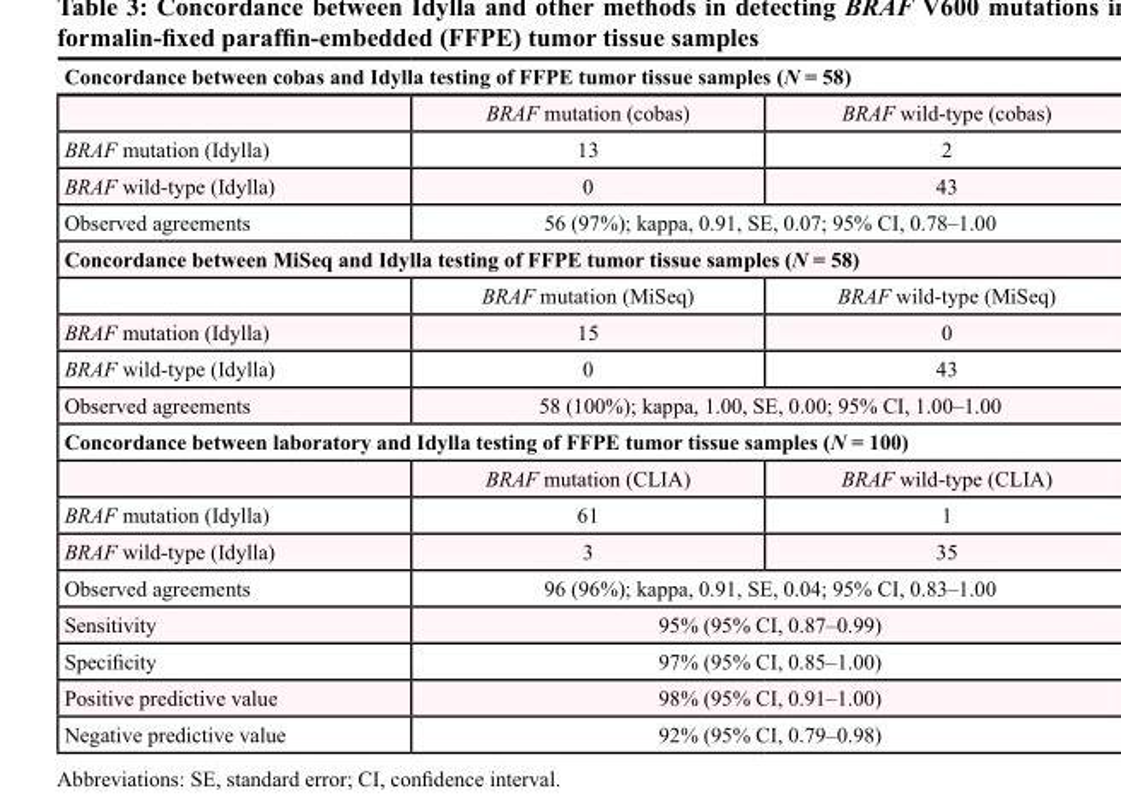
<table><thead><tr><td colspan="3">Concordance between cobas and Idylla testing of FFPE tumor tissue samples (N = 58)</td></tr><tr><td></td><td>BRAF mutation (cobas)</td><td>BRAF wild-type (cobas)</td></tr></thead><tbody><tr><td>BRAF mutation (Idylla)</td><td>13</td><td>2</td></tr><tr><td>BRAF wild-type (Idylla)</td><td>0</td><td>43</td></tr><tr><td>Observed agreements</td><td colspan="2">56 (97%); kappa, 0.91, SE, 0.07; 95% CI, 0.78–1.00</td></tr><tr><td colspan="3">Concordance between MiSeq and Idylla testing of FFPE tumor tissue samples (N = 58)</td></tr><tr><td></td><td>BRAF mutation (MiSeq)</td><td>BRAF wild-type (MiSeq)</td></tr><tr><td>BRAF mutation (Idylla)</td><td>15</td><td>0</td></tr><tr><td>BRAF wild-type (Idylla)</td><td>0</td><td>43</td></tr><tr><td>Observed agreements</td><td colspan="2">58 (100%); kappa, 1.00, SE, 0.00; 95% CI, 1.00–1.00</td></tr><tr><td colspan="3">Concordance between laboratory and Idylla testing of FFPE tumor tissue samples (N = 100)</td></tr><tr><td></td><td>BRAF mutation (CLIA)</td><td>BRAF wild-type (CLIA)</td></tr><tr><td>BRAF mutation (Idylla)</td><td>61</td><td>1</td></tr><tr><td>BRAF wild-type (Idylla)</td><td>3</td><td>35</td></tr><tr><td>Observed agreements</td><td colspan="2">96 (96%); kappa, 0.91, SE, 0.04; 95% CI, 0.83–1.00</td></tr><tr><td>Sensitivity</td><td colspan="2">95% (95% CI, 0.87–0.99)</td></tr><tr><td>Specificity</td><td colspan="2">97% (95% CI, 0.85–1.00)</td></tr><tr><td>Positive predictive value</td><td colspan="2">98% (95% CI, 0.91–1.00)</td></tr><tr><td>Negative predictive value</td><td colspan="2">92% (95% CI, 0.79–0.98)</td></tr></tbody></table>